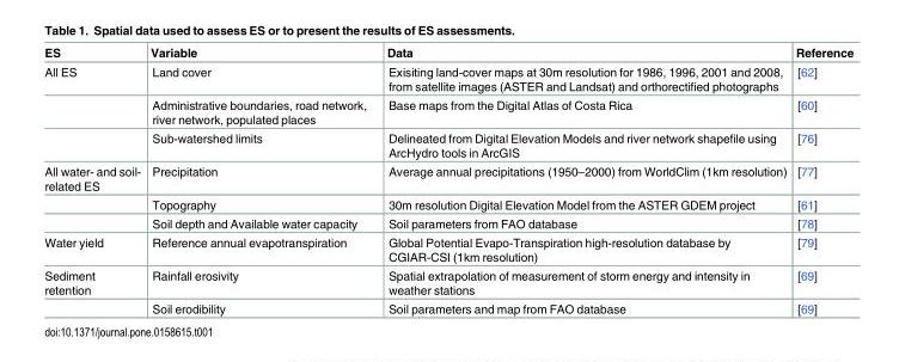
<table><thead><tr><td>ES</td><td>Variable</td><td>Data</td><td>Reference</td></tr></thead><tbody><tr><td rowspan="3">All ES</td><td>Land cover</td><td>Exisiting land-cover maps at 30m resolution for 1986, 1996, 2001 and 2008, from satellite images (ASTER and Landsat) and orthorectified photographs</td><td>[62]</td></tr><tr><td>Administrative boundaries, road network, river network, populated places</td><td>Base maps from the Digital Atlas of Costa Rica</td><td>[60]</td></tr><tr><td>Sub-watershed limits</td><td>Delineated from Digital Elevation Models and river network shapefile using ArcHydro tools in ArcGIS</td><td>[76]</td></tr><tr><td rowspan="3">All water- and soil- related ES</td><td>Precipitation</td><td>Average annual precipitations (1950–2000) from WorldClim (1km resolution)</td><td>[77]</td></tr><tr><td>Topography</td><td>30m resolution Digital Elevation Model from the ASTER GDEM project</td><td>[61]</td></tr><tr><td>Soil depth and Available water capacity</td><td>Soil parameters from FAO database</td><td>[78]</td></tr><tr><td>Water yield</td><td>Reference annual evapotranspiration</td><td>Global Potential Evapo-Transpiration high-resolution database by CGIAR-CSI (1km resolution)</td><td>[79]</td></tr><tr><td rowspan="2">Sediment retention</td><td>Rainfall erosivity</td><td>Spatial extrapolation of measurement of storm energy and intensity in weather stations</td><td>[69]</td></tr><tr><td>Soil erodibility</td><td>Soil parameters and map from FAO database</td><td>[69]</td></tr></tbody></table>